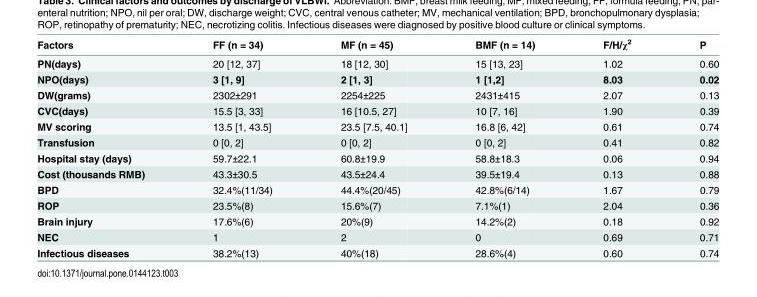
<table><thead><tr><td>Factors</td><td>FF (n = 34)</td><td>MF (n = 45)</td><td>BMF (n = 14)</td><td>F/H/χ<sup>2</sup></td><td>P</td></tr></thead><tbody><tr><td>PN(days)</td><td>20 [12, 37]</td><td>18 [12, 30]</td><td>15 [13, 23]</td><td>1.02</td><td>0.60</td></tr><tr><td>NPO(days)</td><td>3 [1, 9]</td><td>2 [1, 3]</td><td>1 [1,2]</td><td>8.03</td><td>0.02</td></tr><tr><td>DW(grams)</td><td>2302±291</td><td>2254±225</td><td>2431±415</td><td>2.07</td><td>0.13</td></tr><tr><td>CVC(days)</td><td>15.5 [3, 33]</td><td>16 [10.5, 27]</td><td>10 [7, 16]</td><td>1.90</td><td>0.39</td></tr><tr><td>MV scoring</td><td>13.5 [1, 43.5]</td><td>23.5 [7.5, 40.1]</td><td>16.8 [6, 42]</td><td>0.61</td><td>0.74</td></tr><tr><td>Transfusion</td><td>0 [0, 2]</td><td>0 [0, 2]</td><td>0 [0, 2]</td><td>0.41</td><td>0.82</td></tr><tr><td>Hospital stay (days)</td><td>59.7±22.1</td><td>60.8±19.9</td><td>58.8±18.3</td><td>0.06</td><td>0.94</td></tr><tr><td>Cost (thousands RMB)</td><td>43.3±30.5</td><td>43.5±24.4</td><td>39.5±19.4</td><td>0.13</td><td>0.88</td></tr><tr><td>BPD</td><td>32.4%(11/34)</td><td>44.4%(20/45)</td><td>42.8%(6/14)</td><td>1.67</td><td>0.79</td></tr><tr><td>ROP</td><td>23.5%(8)</td><td>15.6%(7)</td><td>7.1%(1)</td><td>2.04</td><td>0.36</td></tr><tr><td>Brain injury</td><td>17.6%(6)</td><td>20%(9)</td><td>14.2%(2)</td><td>0.18</td><td>0.92</td></tr><tr><td>NEC</td><td>1</td><td>2</td><td>0</td><td>0.69</td><td>0.71</td></tr><tr><td>Infectious diseases</td><td>38.2%(13)</td><td>40%(18)</td><td>28.6%(4)</td><td>0.60</td><td>0.74</td></tr></tbody></table>